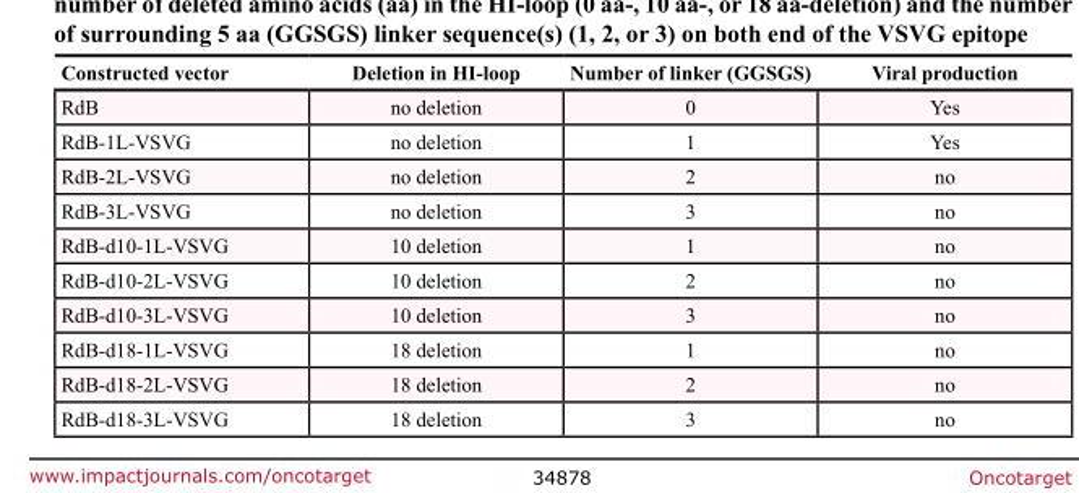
<table><thead><tr><td>Constructed vector</td><td>Deletion in HI-loop</td><td>Number of linker (GGSGS)</td><td>Viral production</td></tr></thead><tbody><tr><td>RdB</td><td>no deletion</td><td>0</td><td>Yes</td></tr><tr><td>RdB-1L-VSVG</td><td>no deletion</td><td>1</td><td>Yes</td></tr><tr><td>RdB-2L-VSVG</td><td>no deletion</td><td>2</td><td>no</td></tr><tr><td>RdB-3L-VSVG</td><td>no deletion</td><td>3</td><td>no</td></tr><tr><td>RdB-d10-1L-VSVG</td><td>10 deletion</td><td>1</td><td>no</td></tr><tr><td>RdB-d10-2L-VSVG</td><td>10 deletion</td><td>2</td><td>no</td></tr><tr><td>RdB-d10-3L-VSVG</td><td>10 deletion</td><td>3</td><td>no</td></tr><tr><td>RdB-d18-1L-VSVG</td><td>18 deletion</td><td>1</td><td>no</td></tr><tr><td>RdB-d18-2L-VSVG</td><td>18 deletion</td><td>2</td><td>no</td></tr><tr><td>RdB-d18-3L-VSVG</td><td>18 deletion</td><td>3</td><td>no</td></tr></tbody></table>